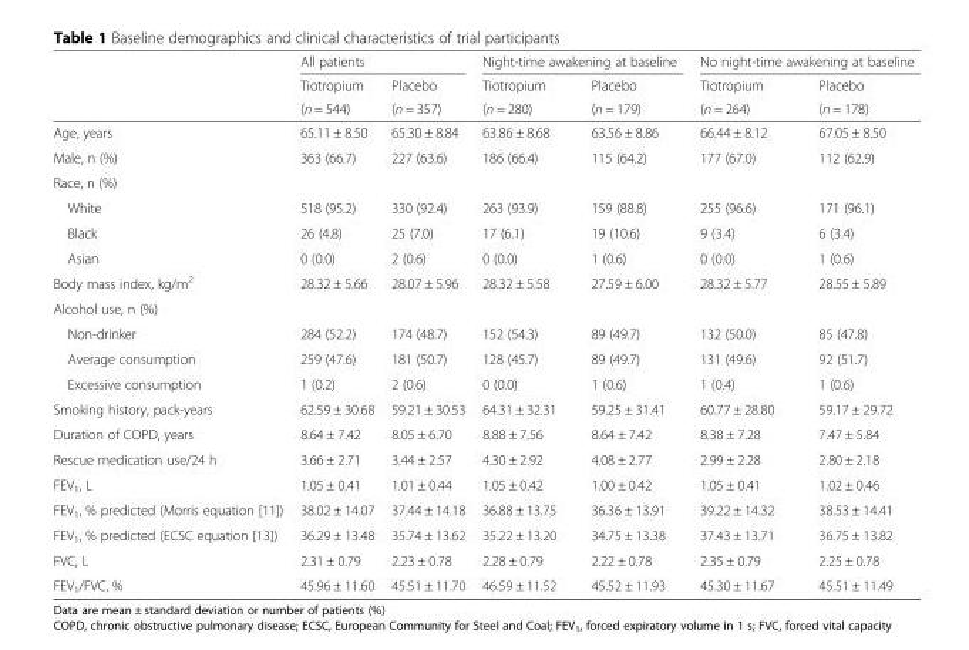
<table><thead><tr><td rowspan="3"></td><td colspan="2">All patients</td><td colspan="2">Night-time awakening at baseline</td><td colspan="2">No night-time awakening at baseline</td></tr><tr><td rowspan="2">Tiotropium (n = 544)</td><td rowspan="2">Placebo (n = 357)</td><td rowspan="2">Tiotropium (n = 280)</td><td rowspan="2">Placebo (n = 179)</td><td rowspan="2">Tiotropium (n = 264)</td><td rowspan="2">Placebo (n = 178)</td></tr><tr></tr></thead><tbody><tr><td>Age, years</td><td>65.11 ± 8.50</td><td>65.30 ± 8.84</td><td>63.86 ± 8.68</td><td>63.56 ± 8.86</td><td>66.44 ± 8.12</td><td>67.05 ± 8.50</td></tr><tr><td>Male, n (%)</td><td>363 (66.7)</td><td>227 (63.6)</td><td>186 (66.4)</td><td>115 (64.2)</td><td>177 (67.0)</td><td>112 (62.9)</td></tr><tr><td colspan="7">Race, n (%)</td></tr><tr><td>White</td><td>518 (95.2)</td><td>330 (92.4)</td><td>263 (93.9)</td><td>159 (88.8)</td><td>255 (96.6)</td><td>171 (96.1)</td></tr><tr><td>Black</td><td>26 (4.8)</td><td>25 (7.0)</td><td>17 (6.1)</td><td>19 (10.6)</td><td>9 (3.4)</td><td>6 (3.4)</td></tr><tr><td>Asian</td><td>0 (0.0)</td><td>2 (0.6)</td><td>0 (0.0)</td><td>1 (0.6)</td><td>0 (0.0)</td><td>1 (0.6)</td></tr><tr><td>Body mass index, kg/m<sup>2</sup></td><td>28.32 ± 5.66</td><td>28.07 ± 5.96</td><td>28.32 ± 5.58</td><td>27.59 ± 6.00</td><td>28.32 ± 5.77</td><td>28.55 ± 5.89</td></tr><tr><td colspan="7">Alcohol use, n (%)</td></tr><tr><td>Non-drinker</td><td>284 (52.2)</td><td>174 (48.7)</td><td>152 (54.3)</td><td>89 (49.7)</td><td>132 (50.0)</td><td>85 (47.8)</td></tr><tr><td>Average consumption</td><td>259 (47.6)</td><td>181 (50.7)</td><td>128 (45.7)</td><td>89 (49.7)</td><td>131 (49.6)</td><td>92 (51.7)</td></tr><tr><td>Excessive consumption</td><td>1 (0.2)</td><td>2 (0.6)</td><td>0 (0.0)</td><td>1 (0.6)</td><td>1 (0.4)</td><td>1 (0.6)</td></tr><tr><td>Smoking history, pack-years</td><td>62.59 ± 30.68</td><td>59.21 ± 30.53</td><td>64.31 ± 32.31</td><td>59.25 ± 31.41</td><td>60.77 ± 28.80</td><td>59.17 ± 29.72</td></tr><tr><td>Duration of COPD, years</td><td>8.64 ± 7.42</td><td>8.05 ± 6.70</td><td>8.88 ± 7.56</td><td>8.64 ± 7.42</td><td>8.38 ± 7.28</td><td>7.47 ± 5.84</td></tr><tr><td>Rescue medication use/24 h</td><td>3.66 ± 2.71</td><td>3.44 ± 2.57</td><td>4.30 ± 2.92</td><td>4.08 ± 2.77</td><td>2.99 ± 2.28</td><td>2.80 ± 2.18</td></tr><tr><td>FEV<sub>1</sub>, L</td><td>1.05 ± 0.41</td><td>1.01 ± 0.44</td><td>1.05 ± 0.42</td><td>1.00 ± 0.42</td><td>1.05 ± 0.41</td><td>1.02 ± 0.46</td></tr><tr><td>FEV<sub>1</sub>, % predicted (Morris equation [11])</td><td>38.02 ± 14.07</td><td>37.44 ± 14.18</td><td>36.88 ± 13.75</td><td>36.36 ± 13.91</td><td>39.22 ± 14.32</td><td>38.53 ± 14.41</td></tr><tr><td>FEV<sub>1</sub>, % predicted (ECSC equation [13])</td><td>36.29 ± 13.48</td><td>35.74 ± 13.62</td><td>35.22 ± 13.20</td><td>34.75 ± 13.38</td><td>37.43 ± 13.71</td><td>36.75 ± 13.82</td></tr><tr><td>FVC, L</td><td>2.31 ± 0.79</td><td>2.23 ± 0.78</td><td>2.28 ± 0.79</td><td>2.22 ± 0.78</td><td>2.35 ± 0.79</td><td>2.25 ± 0.78</td></tr><tr><td>FEV<sub>1</sub>/FVC, %</td><td>45.96 ± 11.60</td><td>45.51 ± 11.70</td><td>46.59 ± 11.52</td><td>45.52 ± 11.93</td><td>45.30 ± 11.67</td><td>45.51 ± 11.49</td></tr></tbody></table>